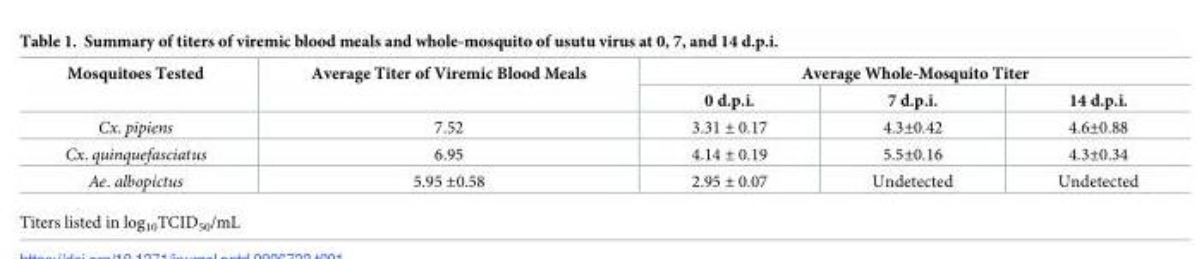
<table><thead><tr><td rowspan="2">Mosquitoes Tested</td><td rowspan="2">Average Titer of Viremic Blood Meals</td><td colspan="3">Average Whole-Mosquito Titer</td></tr><tr><td>0 d.p.i.</td><td>7 d.p.i.</td><td>14 d.p.i.</td></tr></thead><tbody><tr><td>Cx. pipiens</td><td>7.52</td><td>3.31 ± 0.17</td><td>4.3±0.42</td><td>4.6±0.88</td></tr><tr><td>Cx. quinquefasciatus</td><td>6.95</td><td>4.14 ± 0.19</td><td>5.5±0.16</td><td>4.3±0.34</td></tr><tr><td>Ae. albopictus</td><td>5.95 ±0.58</td><td>2.95 ± 0.07</td><td>Undetected</td><td>Undetected</td></tr></tbody></table>